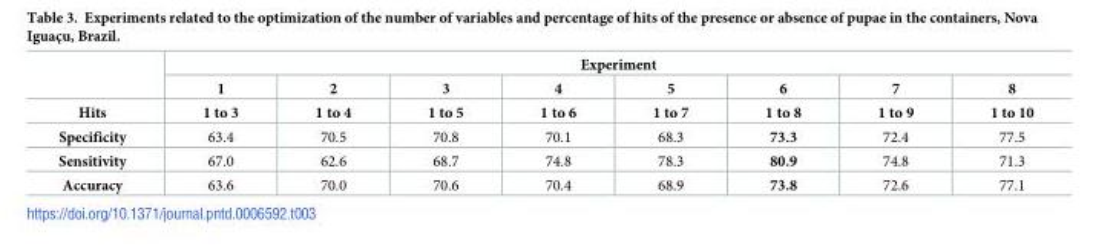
<table><thead><tr><td rowspan="3">Hits</td><td colspan="8">Experiment</td></tr><tr><td rowspan="2">1 1 to 3</td><td rowspan="2">2 1 to 4</td><td rowspan="2">3 1 to 5</td><td rowspan="2">4 1 to 6</td><td rowspan="2">5 1 to 7</td><td rowspan="2">6 1 to 8</td><td rowspan="2">7 1 to 9</td><td rowspan="2">8 1 to 10</td></tr><tr></tr></thead><tbody><tr><td>Specificity</td><td>63.4</td><td>70.5</td><td>70.8</td><td>70.1</td><td>68.3</td><td>73.3</td><td>72.4</td><td>77.5</td></tr><tr><td>Sensitivity</td><td>67.0</td><td>62.6</td><td>68.7</td><td>74.8</td><td>78.3</td><td>80.9</td><td>74.8</td><td>71.3</td></tr><tr><td>Accuracy</td><td>63.6</td><td>70.0</td><td>70.6</td><td>70.4</td><td>68.9</td><td>73.8</td><td>72.6</td><td>77.1</td></tr></tbody></table>